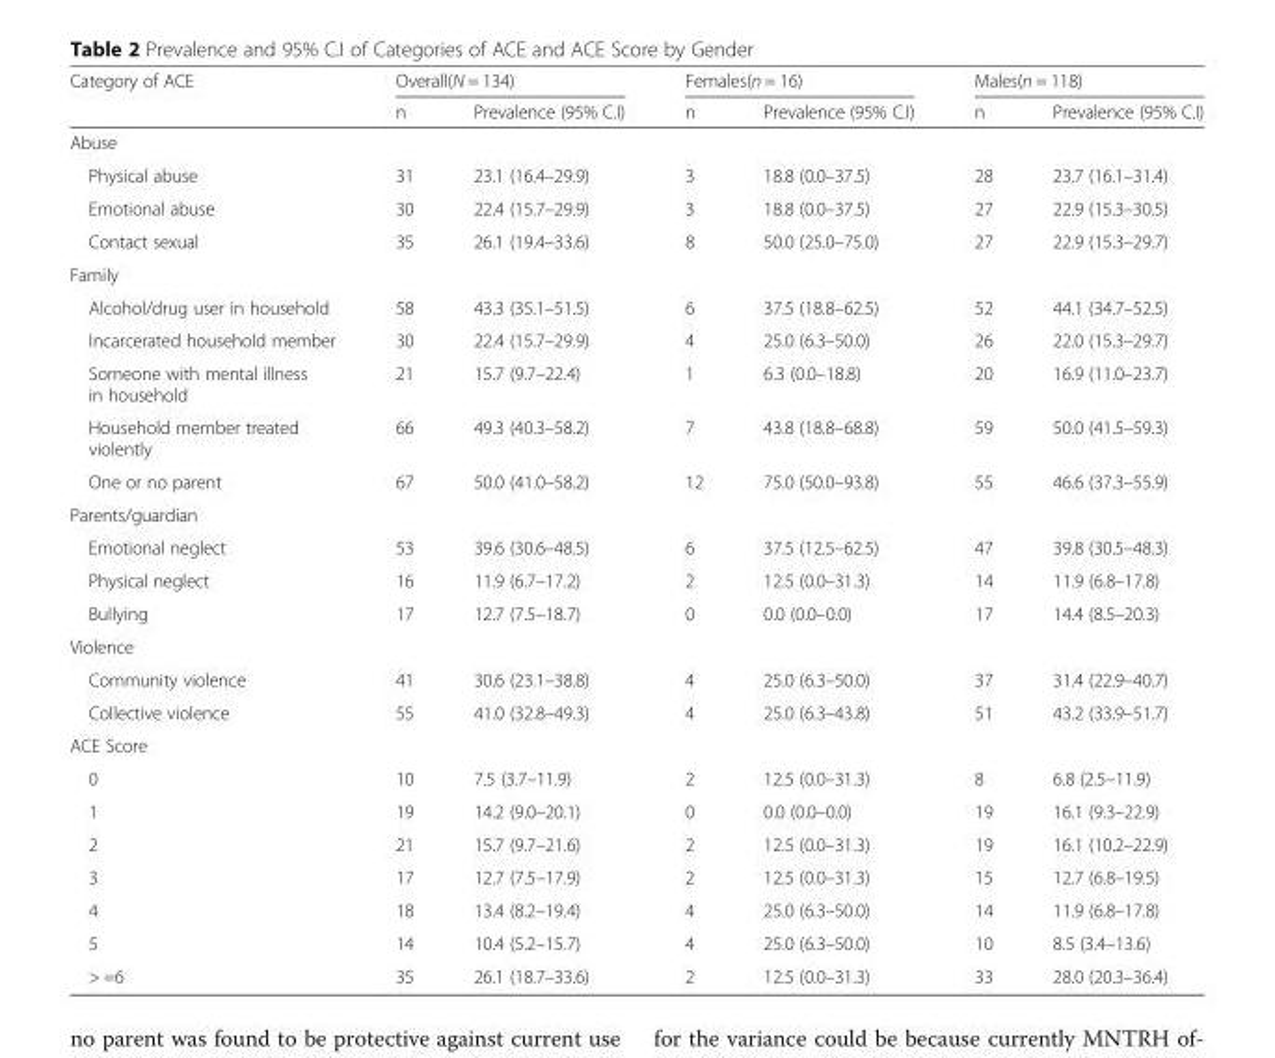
<table><thead><tr><td rowspan="2">Category of ACE</td><td colspan="2">Overall(N = 134)</td><td colspan="2">Females(n = 16)</td><td colspan="2">Males(n = 118)</td></tr><tr><td>n</td><td>Prevalence (95% C.I)</td><td>n</td><td>Prevalence (95% C.I)</td><td>n</td><td>Prevalence (95% C.I)</td></tr></thead><tbody><tr><td colspan="7">Abuse</td></tr><tr><td>Physical abuse</td><td>31</td><td>23.1 (16.4–29.9)</td><td>3</td><td>18.8 (0.0–37.5)</td><td>28</td><td>23.7 (16.1–31.4)</td></tr><tr><td>Emotional abuse</td><td>30</td><td>22.4 (15.7–29.9)</td><td>3</td><td>18.8 (0.0–37.5)</td><td>27</td><td>22.9 (15.3–30.5)</td></tr><tr><td>Contact sexual</td><td>35</td><td>26.1 (19.4–33.6)</td><td>8</td><td>50.0 (25.0–75.0)</td><td>27</td><td>22.9 (15.3–29.7)</td></tr><tr><td colspan="7">Family</td></tr><tr><td>Alcohol/drug user in household</td><td>58</td><td>43.3 (35.1–51.5)</td><td>6</td><td>37.5 (18.8–62.5)</td><td>52</td><td>44.1 (34.7–52.5)</td></tr><tr><td>Incarcerated household member</td><td>30</td><td>22.4 (15.7–29.9)</td><td>4</td><td>25.0 (6.3–50.0)</td><td>26</td><td>22.0 (15.3–29.7)</td></tr><tr><td>Someone with mental illness in household</td><td>21</td><td>15.7 (9.7–22.4)</td><td>1</td><td>6.3 (0.0–18.8)</td><td>20</td><td>16.9 (11.0–23.7)</td></tr><tr><td>Household member treated violently</td><td>66</td><td>49.3 (40.3–58.2)</td><td>7</td><td>43.8 (18.8–68.8)</td><td>59</td><td>50.0 (41.5–59.3)</td></tr><tr><td>One or no parent</td><td>67</td><td>50.0 (41.0–58.2)</td><td>12</td><td>75.0 (50.0–93.8)</td><td>55</td><td>46.6 (37.3–55.9)</td></tr><tr><td colspan="7">Parents/guardian</td></tr><tr><td>Emotional neglect</td><td>53</td><td>39.6 (30.6–48.5)</td><td>6</td><td>37.5 (12.5–62.5)</td><td>47</td><td>39.8 (30.5–48.3)</td></tr><tr><td>Physical neglect</td><td>16</td><td>11.9 (6.7–17.2)</td><td>2</td><td>12.5 (0.0–31.3)</td><td>14</td><td>11.9 (6.8–17.8)</td></tr><tr><td>Bullying</td><td>17</td><td>12.7 (7.5–18.7)</td><td>0</td><td>0.0 (0.0–0.0)</td><td>17</td><td>14.4 (8.5–20.3)</td></tr><tr><td colspan="7">Violence</td></tr><tr><td>Community violence</td><td>41</td><td>30.6 (23.1–38.8)</td><td>4</td><td>25.0 (6.3–50.0)</td><td>37</td><td>31.4 (22.9–40.7)</td></tr><tr><td>Collective violence</td><td>55</td><td>41.0 (32.8–49.3)</td><td>4</td><td>25.0 (6.3–43.8)</td><td>51</td><td>43.2 (33.9–51.7)</td></tr><tr><td colspan="7">ACE Score</td></tr><tr><td>0</td><td>10</td><td>7.5 (3.7–11.9)</td><td>2</td><td>12.5 (0.0–31.3)</td><td>8</td><td>6.8 (2.5–11.9)</td></tr><tr><td>1</td><td>19</td><td>14.2 (9.0–20.1)</td><td>0</td><td>0.0 (0.0–0.0)</td><td>19</td><td>16.1 (9.3–22.9)</td></tr><tr><td>2</td><td>21</td><td>15.7 (9.7–21.6)</td><td>2</td><td>12.5 (0.0–31.3)</td><td>19</td><td>16.1 (10.2–22.9)</td></tr><tr><td>3</td><td>17</td><td>12.7 (7.5–17.9)</td><td>2</td><td>12.5 (0.0–31.3)</td><td>15</td><td>12.7 (6.8–19.5)</td></tr><tr><td>4</td><td>18</td><td>13.4 (8.2–19.4)</td><td>4</td><td>25.0 (6.3–50.0)</td><td>14</td><td>11.9 (6.8–17.8)</td></tr><tr><td>5</td><td>14</td><td>10.4 (5.2–15.7)</td><td>4</td><td>25.0 (6.3–50.0)</td><td>10</td><td>8.5 (3.4–13.6)</td></tr><tr><td>&gt; =6</td><td>35</td><td>26.1 (18.7–33.6)</td><td>2</td><td>12.5 (0.0–31.3)</td><td>33</td><td>28.0 (20.3–36.4)</td></tr></tbody></table>